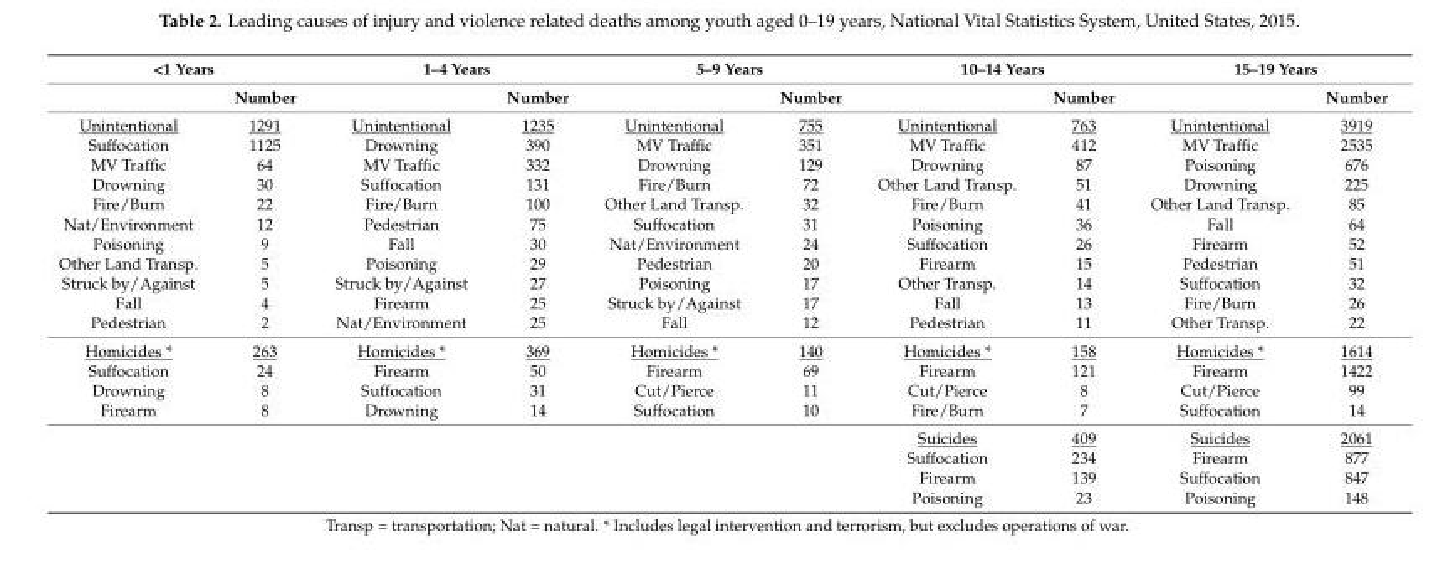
<table><thead><tr><td colspan="2">&lt;1 Years</td><td colspan="2">1–4 Years</td><td colspan="2">5–9 Years</td><td colspan="2">10–14 Years</td><td colspan="2">15–19 Years</td></tr><tr><td></td><td>Number</td><td></td><td>Number</td><td></td><td>Number</td><td></td><td>Number</td><td></td><td>Number</td></tr></thead><tbody><tr><td>Unintentional</td><td>1291</td><td>Unintentional</td><td>1235</td><td>Unintentional</td><td>755</td><td>Unintentional</td><td>763</td><td>Unintentional</td><td>3919</td></tr><tr><td>Suffocation</td><td>1125</td><td>Drowning</td><td>390</td><td>MV Traffic</td><td>351</td><td>MV Traffic</td><td>412</td><td>MV Traffic</td><td>2535</td></tr><tr><td>MV Traffic</td><td>64</td><td>MV Traffic</td><td>332</td><td>Drowning</td><td>129</td><td>Drowning</td><td>87</td><td>Poisoning</td><td>676</td></tr><tr><td>Drowning</td><td>30</td><td>Suffocation</td><td>131</td><td>Fire/Burn</td><td>72</td><td>Other Land Transp.</td><td>51</td><td>Drowning</td><td>225</td></tr><tr><td>Fire/Burn</td><td>22</td><td>Fire/Burn</td><td>100</td><td>Other Land Transp.</td><td>32</td><td>Fire/Burn</td><td>41</td><td>Other Land Transp.</td><td>85</td></tr><tr><td>Nat/Environment</td><td>12</td><td>Pedestrian</td><td>75</td><td>Suffocation</td><td>31</td><td>Poisoning</td><td>36</td><td>Fall</td><td>64</td></tr><tr><td>Poisoning</td><td>9</td><td>Fall</td><td>30</td><td>Nat/Environment</td><td>24</td><td>Suffocation</td><td>26</td><td>Firearm</td><td>52</td></tr><tr><td>Other Land Transp.</td><td>5</td><td>Poisoning</td><td>29</td><td>Pedestrian</td><td>20</td><td>Firearm</td><td>15</td><td>Pedestrian</td><td>51</td></tr><tr><td>Struck by/Against</td><td>5</td><td>Struck by/Against</td><td>27</td><td>Poisoning</td><td>17</td><td>Other Transp.</td><td>14</td><td>Suffocation</td><td>32</td></tr><tr><td>Fall</td><td>4</td><td>Firearm</td><td>25</td><td>Struck by/Against</td><td>17</td><td>Fall</td><td>13</td><td>Fire/Burn</td><td>26</td></tr><tr><td>Pedestrian</td><td>2</td><td>Nat/Environment</td><td>25</td><td>Fall</td><td>12</td><td>Pedestrian</td><td>11</td><td>Other Transp.</td><td>22</td></tr><tr><td>Homicides *</td><td>263</td><td>Homicides *</td><td>369</td><td>Homicides *</td><td>140</td><td>Homicides *</td><td>158</td><td>Homicides *</td><td>1614</td></tr><tr><td>Suffocation</td><td>24</td><td>Firearm</td><td>50</td><td>Firearm</td><td>69</td><td>Firearm</td><td>121</td><td>Firearm</td><td>1422</td></tr><tr><td>Drowning</td><td>8</td><td>Suffocation</td><td>31</td><td>Cut/Pierce</td><td>11</td><td>Cut/Pierce</td><td>8</td><td>Cut/Pierce</td><td>99</td></tr><tr><td rowspan="5">Firearm</td><td>8</td><td>Drowning</td><td>14</td><td>Suffocation</td><td>10</td><td>Fire/Burn</td><td>7</td><td>Suffocation</td><td>14</td></tr><tr><td></td><td></td><td></td><td></td><td></td><td>Suicides</td><td>409</td><td>Suicides</td><td>2061</td></tr><tr><td></td><td></td><td></td><td></td><td></td><td>Suffocation</td><td>234</td><td>Firearm</td><td>877</td></tr><tr><td></td><td></td><td></td><td></td><td></td><td>Firearm</td><td>139</td><td>Suffocation</td><td>847</td></tr><tr><td></td><td></td><td></td><td></td><td></td><td>Poisoning</td><td>23</td><td>Poisoning</td><td>148</td></tr></tbody></table>